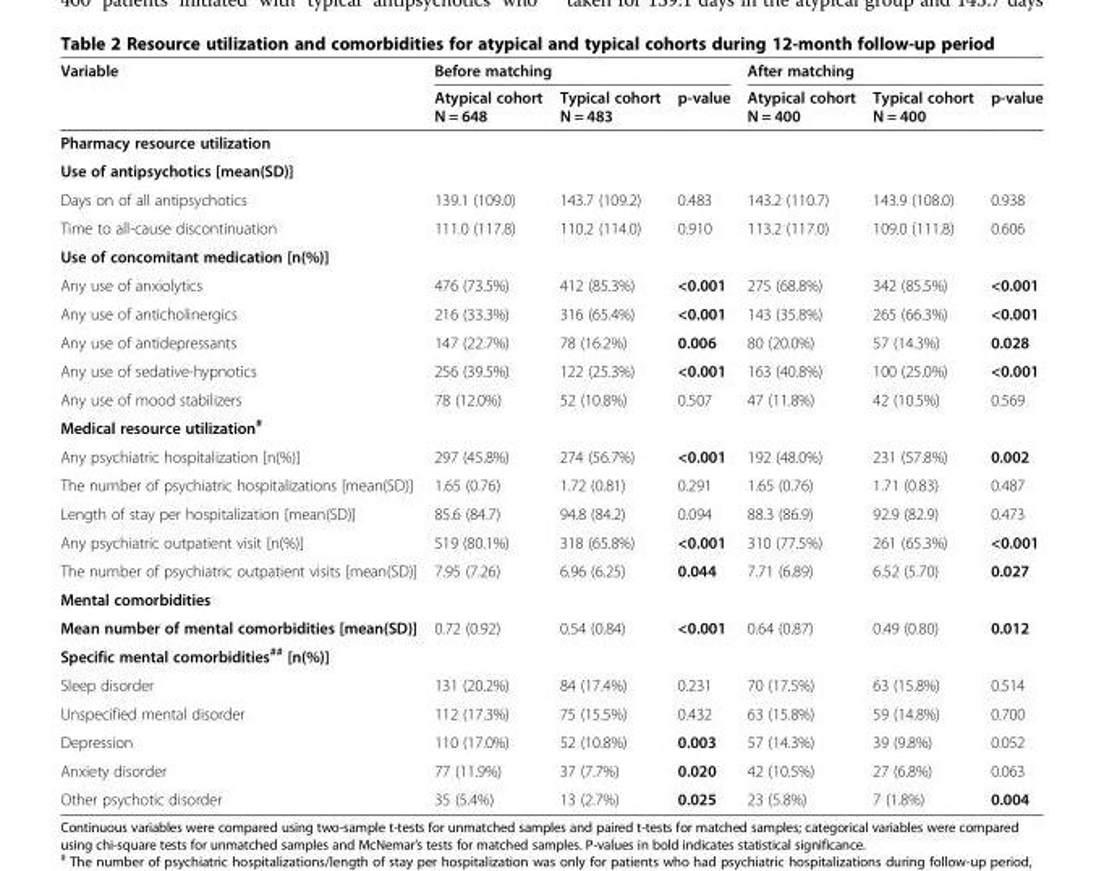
<table><thead><tr><td rowspan="2">Variable</td><td colspan="3">Before matching</td><td colspan="3">After matching</td></tr><tr><td>Atypical cohort N = 648</td><td>Typical cohort N = 483</td><td>p-value</td><td>Atypical cohort N = 400</td><td>Typical cohort N = 400</td><td>p-value</td></tr></thead><tbody><tr><td colspan="7">Pharmacy resource utilization</td></tr><tr><td colspan="7">Use of antipsychotics [mean(SD)]</td></tr><tr><td>Days on of all antipsychotics</td><td>139.1 (109.0)</td><td>143.7 (109.2)</td><td>0.483</td><td>143.2 (110.7)</td><td>143.9 (108.0)</td><td>0.938</td></tr><tr><td>Time to all-cause discontinuation</td><td>111.0 (117.8)</td><td>110.2 (114.0)</td><td>0.910</td><td>113.2 (117.0)</td><td>109.0 (111.8)</td><td>0.606</td></tr><tr><td colspan="7">Use of concomitant medication [n(%)]</td></tr><tr><td>Any use of anxiolytics</td><td>476 (73.5%)</td><td>412 (85.3%)</td><td>&lt;0.001</td><td>275 (68.8%)</td><td>342 (85.5%)</td><td>&lt;0.001</td></tr><tr><td>Any use of anticholinergics</td><td>216 (33.3%)</td><td>316 (65.4%)</td><td>&lt;0.001</td><td>143 (35.8%)</td><td>265 (66.3%)</td><td>&lt;0.001</td></tr><tr><td>Any use of antidepressants</td><td>147 (22.7%)</td><td>78 (16.2%)</td><td>0.006</td><td>80 (20.0%)</td><td>57 (14.3%)</td><td>0.028</td></tr><tr><td>Any use of sedative-hypnotics</td><td>256 (39.5%)</td><td>122 (25.3%)</td><td>&lt;0.001</td><td>163 (40.8%)</td><td>100 (25.0%)</td><td>&lt;0.001</td></tr><tr><td>Any use of mood stabilizers</td><td>78 (12.0%)</td><td>52 (10.8%)</td><td>0.507</td><td>47 (11.8%)</td><td>42 (10.5%)</td><td>0.569</td></tr><tr><td colspan="7">Medical resource utilization<sup>#</sup></td></tr><tr><td>Any psychiatric hospitalization [n(%)]</td><td>297 (45.8%)</td><td>274 (56.7%)</td><td>&lt;0.001</td><td>192 (48.0%)</td><td>231 (57.8%)</td><td>0.002</td></tr><tr><td>The number of psychiatric hospitalizations [mean(SD)]</td><td>1.65 (0.76)</td><td>1.72 (0.81)</td><td>0.291</td><td>1.65 (0.76)</td><td>1.71 (0.83)</td><td>0.487</td></tr><tr><td>Length of stay per hospitalization [mean(SD)]</td><td>85.6 (84.7)</td><td>94.8 (84.2)</td><td>0.094</td><td>88.3 (86.9)</td><td>92.9 (82.9)</td><td>0.473</td></tr><tr><td>Any psychiatric outpatient visit [n(%)]</td><td>519 (80.1%)</td><td>318 (65.8%)</td><td>&lt;0.001</td><td>310 (77.5%)</td><td>261 (65.3%)</td><td>&lt;0.001</td></tr><tr><td>The number of psychiatric outpatient visits [mean(SD)]</td><td>7.95 (7.26)</td><td>6.96 (6.25)</td><td>0.044</td><td>7.71 (6.89)</td><td>6.52 (5.70)</td><td>0.027</td></tr><tr><td colspan="7">Mental comorbidities</td></tr><tr><td>Mean number of mental comorbidities [mean(SD)]</td><td>0.72 (0.92)</td><td>0.54 (0.84)</td><td>&lt;0.001</td><td>0.64 (0.87)</td><td>0.49 (0.80)</td><td>0.012</td></tr><tr><td colspan="7">Specific mental comorbidities<sup>##</sup> [n(%)]</td></tr><tr><td>Sleep disorder</td><td>131 (20.2%)</td><td>84 (17.4%)</td><td>0.231</td><td>70 (17.5%)</td><td>63 (15.8%)</td><td>0.514</td></tr><tr><td>Unspecified mental disorder</td><td>112 (17.3%)</td><td>75 (15.5%)</td><td>0.432</td><td>63 (15.8%)</td><td>59 (14.8%)</td><td>0.700</td></tr><tr><td>Depression</td><td>110 (17.0%)</td><td>52 (10.8%)</td><td>0.003</td><td>57 (14.3%)</td><td>39 (9.8%)</td><td>0.052</td></tr><tr><td>Anxiety disorder</td><td>77 (11.9%)</td><td>37 (7.7%)</td><td>0.020</td><td>42 (10.5%)</td><td>27 (6.8%)</td><td>0.063</td></tr><tr><td>Other psychotic disorder</td><td>35 (5.4%)</td><td>13 (2.7%)</td><td>0.025</td><td>23 (5.8%)</td><td>7 (1.8%)</td><td>0.004</td></tr></tbody></table>